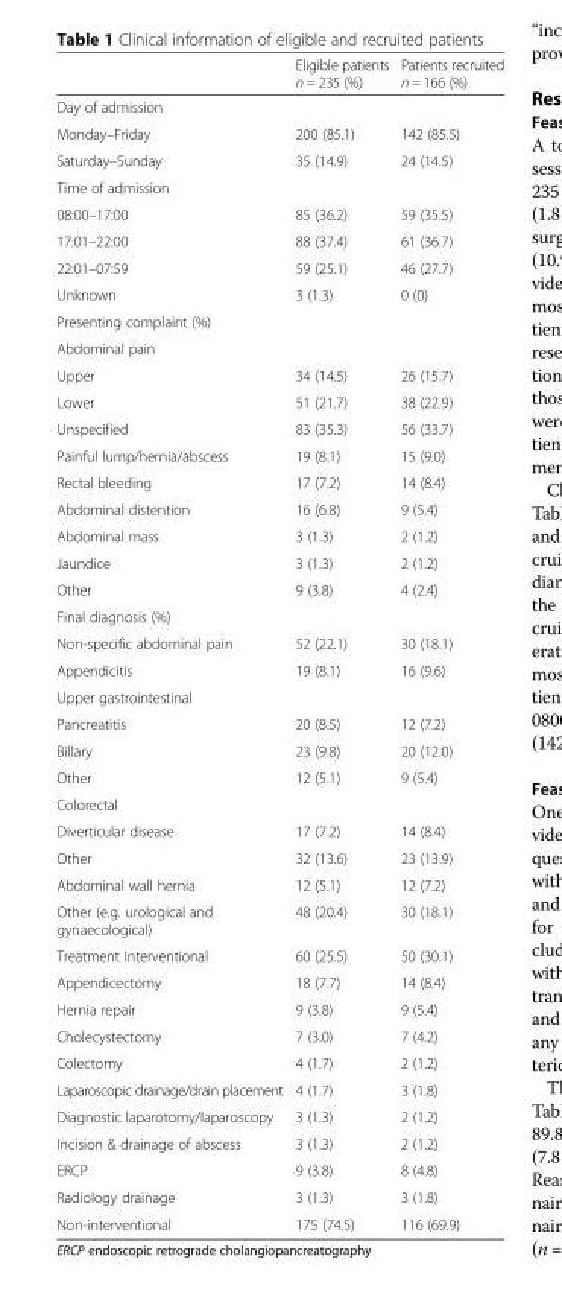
<table><thead><tr><td></td><td>Eligible patients n = 235 (%)</td><td>Patients recruited n = 166 (%)</td></tr></thead><tbody><tr><td colspan="3">Day of admission</td></tr><tr><td>Monday–Friday</td><td>200 (85.1)</td><td>142 (85.5)</td></tr><tr><td>Saturday–Sunday</td><td>35 (14.9)</td><td>24 (14.5)</td></tr><tr><td colspan="3">Time of admission</td></tr><tr><td>08:00–17:00</td><td>85 (36.2)</td><td>59 (35.5)</td></tr><tr><td>17:01–22:00</td><td>88 (37.4)</td><td>61 (36.7)</td></tr><tr><td>22:01–07:59</td><td>59 (25.1)</td><td>46 (27.7)</td></tr><tr><td>Unknown</td><td>3 (1.3)</td><td>0 (0)</td></tr><tr><td>Presenting complaint (%)</td><td rowspan="2"></td><td rowspan="2"></td></tr><tr><td>Abdominal pain</td></tr><tr><td>Upper</td><td>34 (14.5)</td><td>26 (15.7)</td></tr><tr><td>Lower</td><td>51 (21.7)</td><td>38 (22.9)</td></tr><tr><td>Unspecified</td><td>83 (35.3)</td><td>56 (33.7)</td></tr><tr><td>Painful lump/hernia/abscess</td><td>19 (8.1)</td><td>15 (9.0)</td></tr><tr><td>Rectal bleeding</td><td>17 (7.2)</td><td>14 (8.4)</td></tr><tr><td>Abdominal distention</td><td>16 (6.8)</td><td>9 (5.4)</td></tr><tr><td>Abdominal mass</td><td>3 (1.3)</td><td>2 (1.2)</td></tr><tr><td>Jaundice</td><td>3 (1.3)</td><td>2 (1.2)</td></tr><tr><td>Other</td><td>9 (3.8)</td><td>4 (2.4)</td></tr><tr><td colspan="3">Final diagnosis (%)</td></tr><tr><td>Non-specific abdominal pain</td><td>52 (22.1)</td><td>30 (18.1)</td></tr><tr><td>Appendicitis</td><td>19 (8.1)</td><td>16 (9.6)</td></tr><tr><td colspan="3">Upper gastrointestinal</td></tr><tr><td>Pancreatitis</td><td>20 (8.5)</td><td>12 (7.2)</td></tr><tr><td>Billary</td><td>23 (9.8)</td><td>20 (12.0)</td></tr><tr><td>Other</td><td>12 (5.1)</td><td>9 (5.4)</td></tr><tr><td colspan="3">Colorectal</td></tr><tr><td>Diverticular disease</td><td>17 (7.2)</td><td>14 (8.4)</td></tr><tr><td>Other</td><td>32 (13.6)</td><td>23 (13.9)</td></tr><tr><td>Abdominal wall hernia</td><td>12 (5.1)</td><td>12 (7.2)</td></tr><tr><td>Other (e.g. urological and gynaecological)</td><td>48 (20.4)</td><td>30 (18.1)</td></tr><tr><td>Treatment Interventional</td><td>60 (25.5)</td><td>50 (30.1)</td></tr><tr><td>Appendicectomy</td><td>18 (7.7)</td><td>14 (8.4)</td></tr><tr><td>Hernia repair</td><td>9 (3.8)</td><td>9 (5.4)</td></tr><tr><td>Cholecystectomy</td><td>7 (3.0)</td><td>7 (4.2)</td></tr><tr><td>Colectomy</td><td>4 (1.7)</td><td>2 (1.2)</td></tr><tr><td>Laparoscopic drainage/drain placement</td><td>4 (1.7)</td><td>3 (1.8)</td></tr><tr><td>Diagnostic laparotomy/laparoscopy</td><td>3 (1.3)</td><td>2 (1.2)</td></tr><tr><td>Incision &amp; drainage of abscess</td><td>3 (1.3)</td><td>2 (1.2)</td></tr><tr><td>ERCP</td><td>9 (3.8)</td><td>8 (4.8)</td></tr><tr><td>Radiology drainage</td><td>3 (1.3)</td><td>3 (1.8)</td></tr><tr><td>Non-interventional</td><td>175 (74.5)</td><td>116 (69.9)</td></tr></tbody></table>